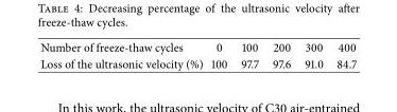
<table><tbody><tr><td>Number of freeze-thaw cycles</td><td>0</td><td>100</td><td>200</td><td>300</td><td>400</td></tr><tr><td>Loss of the ultrasonic velocity (%)</td><td>100</td><td>97.7</td><td>97.6</td><td>91.0</td><td>84.7</td></tr></tbody></table>